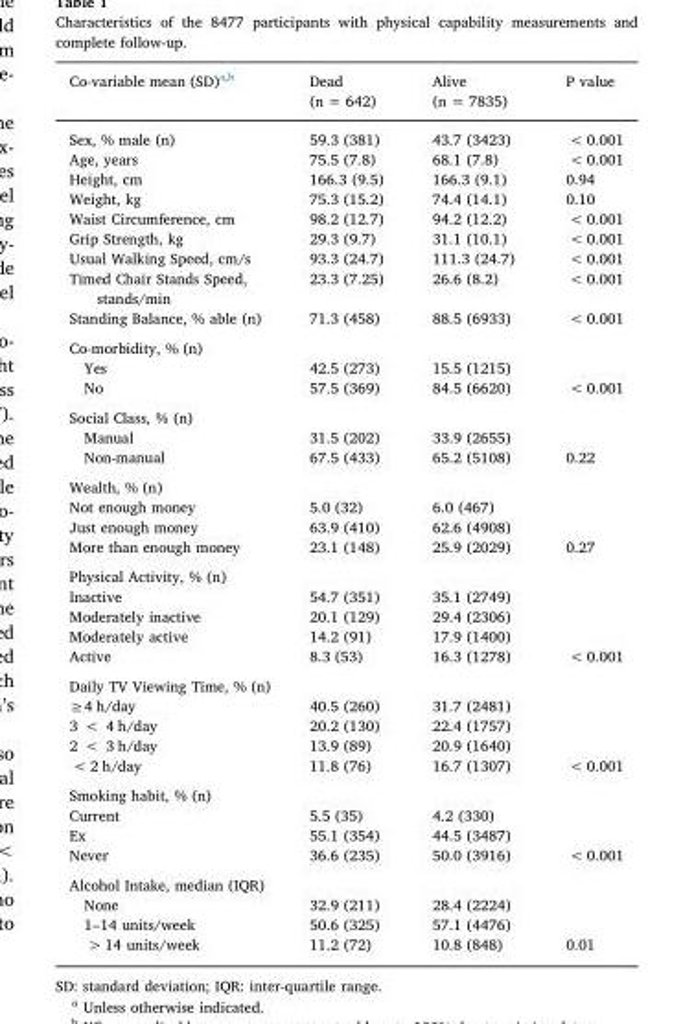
<table><thead><tr><td>Co-variable mean (SD)<sup>a,b</sup></td><td>Dead (n = 642)</td><td>Alive (n = 7835)</td><td>P value</td></tr></thead><tbody><tr><td>Sex, % male (n)</td><td>59.3 (381)</td><td>43.7 (3423)</td><td>&lt; 0.001</td></tr><tr><td>Age, years</td><td>75.5 (7.8)</td><td>68.1 (7.8)</td><td>&lt; 0.001</td></tr><tr><td>Height, cm</td><td>166.3 (9.5)</td><td>166.3 (9.1)</td><td>0.94</td></tr><tr><td>Weight, kg</td><td>75.3 (15.2)</td><td>74.4 (14.1)</td><td>0.10</td></tr><tr><td>Waist Circumference, cm</td><td>98.2 (12.7)</td><td>94.2 (12.2)</td><td>&lt; 0.001</td></tr><tr><td>Grip Strength, kg</td><td>29.3 (9.7)</td><td>31.1 (10.1)</td><td>&lt; 0.001</td></tr><tr><td>Usual Walking Speed, cm/s</td><td>93.3 (24.7)</td><td>111.3 (24.7)</td><td>&lt; 0.001</td></tr><tr><td>Timed Chair Stands Speed, stands/min</td><td>23.3 (7.25)</td><td>26.6 (8.2)</td><td>&lt; 0.001</td></tr><tr><td>Standing Balance, % able (n)</td><td>71.3 (458)</td><td>88.5 (6933)</td><td>&lt; 0.001</td></tr><tr><td colspan="4">Co-morbidity, % (n)</td></tr><tr><td>Yes</td><td>42.5 (273)</td><td>15.5 (1215)</td><td></td></tr><tr><td>No</td><td>57.5 (369)</td><td>84.5 (6620)</td><td>&lt; 0.001</td></tr><tr><td colspan="4">Social Class, % (n)</td></tr><tr><td>Manual</td><td>31.5 (202)</td><td>33.9 (2655)</td><td></td></tr><tr><td>Non-manual</td><td>67.5 (433)</td><td>65.2 (5108)</td><td>0.22</td></tr><tr><td colspan="4">Wealth, % (n)</td></tr><tr><td>Not enough money</td><td>5.0 (32)</td><td>6.0 (467)</td><td></td></tr><tr><td>Just enough money</td><td>63.9 (410)</td><td>62.6 (4908)</td><td></td></tr><tr><td>More than enough money</td><td>23.1 (148)</td><td>25.9 (2029)</td><td>0.27</td></tr><tr><td colspan="4">Physical Activity, % (n)</td></tr><tr><td>Inactive</td><td>54.7 (351)</td><td>35.1 (2749)</td><td></td></tr><tr><td>Moderately inactive</td><td>20.1 (129)</td><td>29.4 (2306)</td><td></td></tr><tr><td>Moderately active</td><td>14.2 (91)</td><td>17.9 (1400)</td><td></td></tr><tr><td>Active</td><td>8.3 (53)</td><td>16.3 (1278)</td><td>&lt; 0.001</td></tr><tr><td colspan="4">Daily TV Viewing Time, % (n)</td></tr><tr><td>≥4 h/day</td><td>40.5 (260)</td><td>31.7 (2481)</td><td></td></tr><tr><td>3 &lt; 4 h/day</td><td>20.2 (130)</td><td>22.4 (1757)</td><td></td></tr><tr><td>2 &lt; 3 h/day</td><td>13.9 (89)</td><td>20.9 (1640)</td><td></td></tr><tr><td>&lt; 2 h/day</td><td>11.8 (76)</td><td>16.7 (1307)</td><td>&lt; 0.001</td></tr><tr><td colspan="4">Smoking habit, % (n)</td></tr><tr><td>Current</td><td>5.5 (35)</td><td>4.2 (330)</td><td></td></tr><tr><td>Ex</td><td>55.1 (354)</td><td>44.5 (3487)</td><td></td></tr><tr><td>Never</td><td>36.6 (235)</td><td>50.0 (3916)</td><td>&lt; 0.001</td></tr><tr><td colspan="4">Alcohol Intake, median (IQR)</td></tr><tr><td>None</td><td>32.9 (211)</td><td>28.4 (2224)</td><td></td></tr><tr><td>1–14 units/week</td><td>50.6 (325)</td><td>57.1 (4476)</td><td></td></tr><tr><td>&gt; 14 units/week</td><td>11.2 (72)</td><td>10.8 (848)</td><td>0.01</td></tr></tbody></table>